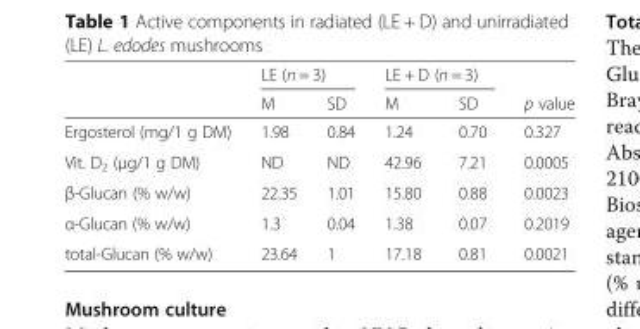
<table><thead><tr><td rowspan="2"></td><td colspan="2">LE (n = 3)</td><td colspan="2">LE + D (n = 3)</td><td rowspan="2">p value</td></tr><tr><td>M</td><td>SD</td><td>M</td><td>SD</td></tr></thead><tbody><tr><td>Ergosterol (mg/1 g DM)</td><td>1.98</td><td>0.84</td><td>1.24</td><td>0.70</td><td>0.327</td></tr><tr><td>Vit. D<sub>2</sub> (μg/1 g DM)</td><td>ND</td><td>ND</td><td>42.96</td><td>7.21</td><td>0.0005</td></tr><tr><td>β-Glucan (% w/w)</td><td>22.35</td><td>1.01</td><td>15.80</td><td>0.88</td><td>0.0023</td></tr><tr><td>α-Glucan (% w/w)</td><td>1.3</td><td>0.04</td><td>1.38</td><td>0.07</td><td>0.2019</td></tr><tr><td>total-Glucan (% w/w)</td><td>23.64</td><td>1</td><td>17.18</td><td>0.81</td><td>0.0021</td></tr></tbody></table>